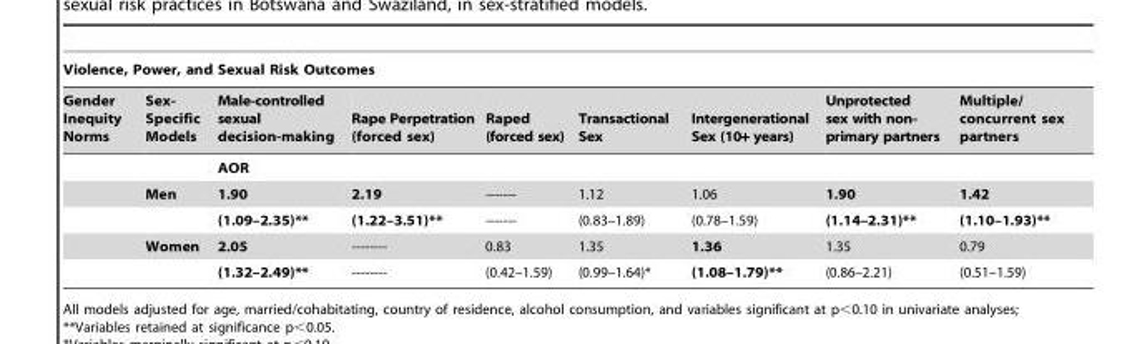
<table><thead><tr><td colspan="9">Violence, Power, and Sexual Risk Outcomes</td></tr><tr><td>Gender Inequity Norms</td><td>Sex- Specific Models</td><td>Male-controlled sexual decision-making</td><td>Rape Perpetration (forced sex)</td><td>Raped (forced sex)</td><td>Transactional Sex</td><td>Intergenerational Sex (10+ years)</td><td>Unprotected sex with non- primary partners</td><td>Multiple/ concurrent sex partners</td></tr></thead><tbody><tr><td></td><td></td><td>AOR</td><td></td><td></td><td></td><td></td><td></td><td></td></tr><tr><td></td><td>Men</td><td>1.90</td><td>2.19</td><td>-------</td><td>1.12</td><td>1.06</td><td>1.90</td><td>1.42</td></tr><tr><td></td><td></td><td>(1.09–2.35)**</td><td>(1.22–3.51)**</td><td>-------</td><td>(0.83–1.89)</td><td>(0.78–1.59)</td><td>(1.14–2.31)**</td><td>(1.10–1.93)**</td></tr><tr><td></td><td>Women</td><td>2.05</td><td>--------</td><td>0.83</td><td>1.35</td><td>1.36</td><td>1.35</td><td>0.79</td></tr><tr><td></td><td></td><td>(1.32–2.49)**</td><td>--------</td><td>(0.42–1.59)</td><td>(0.99–1.64)*</td><td>(1.08–1.79)**</td><td>(0.86–2.21)</td><td>(0.51–1.59)</td></tr></tbody></table>